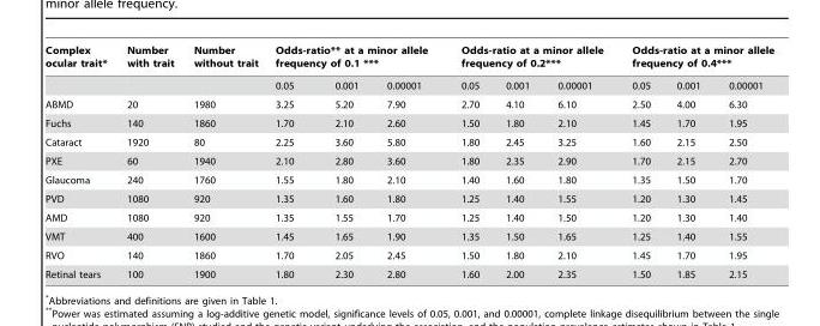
<table><thead><tr><td rowspan="2">Complex ocular trait*</td><td rowspan="2">Number with trait</td><td rowspan="2">Number without trait</td><td colspan="3">Odds-ratio** at a minor allele frequency of 0.1 ***</td><td colspan="3">Odds-ratio at a minor allele frequency of 0.2***</td><td colspan="3">Odds-ratio at a minor allele frequency of 0.4***</td></tr><tr><td>0.05</td><td>0.001</td><td>0.00001</td><td>0.05</td><td>0.001</td><td>0.00001</td><td>0.05</td><td>0.001</td><td>0.00001</td></tr></thead><tbody><tr><td>ABMD</td><td>20</td><td>1980</td><td>3.25</td><td>5.20</td><td>7.90</td><td>2.70</td><td>4.10</td><td>6.10</td><td>2.50</td><td>4.00</td><td>6.30</td></tr><tr><td>Fuchs</td><td>140</td><td>1860</td><td>1.70</td><td>2.10</td><td>2.60</td><td>1.50</td><td>1.80</td><td>2.10</td><td>1.45</td><td>1.70</td><td>1.95</td></tr><tr><td>Cataract</td><td>1920</td><td>80</td><td>2.25</td><td>3.60</td><td>5.80</td><td>1.80</td><td>2.45</td><td>3.25</td><td>1.60</td><td>2.15</td><td>2.50</td></tr><tr><td>PXE</td><td>60</td><td>1940</td><td>2.10</td><td>2.80</td><td>3.60</td><td>1.80</td><td>2.35</td><td>2.90</td><td>1.70</td><td>2.15</td><td>2.70</td></tr><tr><td>Glaucoma</td><td>240</td><td>1760</td><td>1.55</td><td>1.80</td><td>2.10</td><td>1.40</td><td>1.60</td><td>1.80</td><td>1.35</td><td>1.50</td><td>1.70</td></tr><tr><td>PVD</td><td>1080</td><td>920</td><td>1.35</td><td>1.60</td><td>1.80</td><td>1.25</td><td>1.40</td><td>1.55</td><td>1.20</td><td>1.30</td><td>1.45</td></tr><tr><td>AMD</td><td>1080</td><td>920</td><td>1.35</td><td>1.55</td><td>1.70</td><td>1.25</td><td>1.40</td><td>1.50</td><td>1.20</td><td>1.30</td><td>1.40</td></tr><tr><td>VMT</td><td>400</td><td>1600</td><td>1.45</td><td>1.65</td><td>1.90</td><td>1.35</td><td>1.50</td><td>1.65</td><td>1.25</td><td>1.40</td><td>1.55</td></tr><tr><td>RVO</td><td>140</td><td>1860</td><td>1.70</td><td>2.05</td><td>2.45</td><td>1.50</td><td>1.80</td><td>2.10</td><td>1.45</td><td>1.70</td><td>1.95</td></tr><tr><td>Retinal tears</td><td>100</td><td>1900</td><td>1.80</td><td>2.30</td><td>2.80</td><td>1.60</td><td>2.00</td><td>2.35</td><td>1.50</td><td>1.85</td><td>2.15</td></tr></tbody></table>